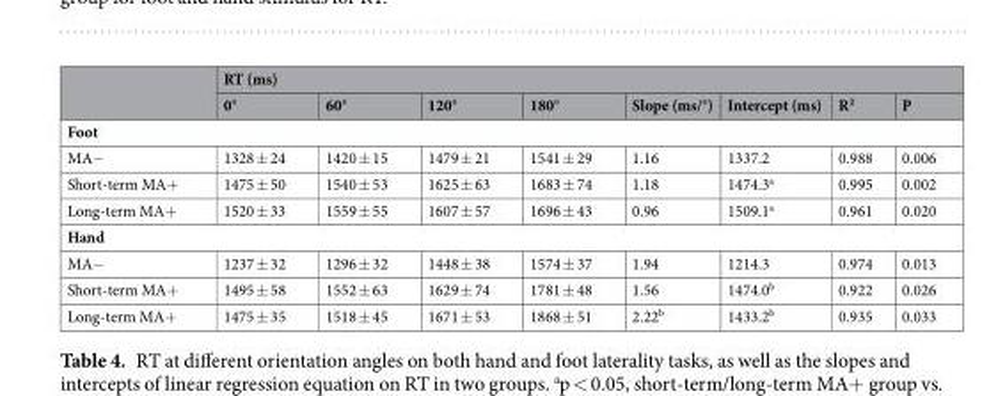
<table><thead><tr><td rowspan="2"></td><td colspan="8">RT (ms)</td></tr><tr><td>0°</td><td>60°</td><td>120°</td><td>180°</td><td>Slope (ms/°)</td><td>Intercept (ms)</td><td>R<sup>2</sup></td><td>P</td></tr></thead><tbody><tr><td colspan="9">Foot</td></tr><tr><td>MA−</td><td>1328 ± 24</td><td>1420 ± 15</td><td>1479 ± 21</td><td>1541 ± 29</td><td>1.16</td><td>1337.2</td><td>0.988</td><td>0.006</td></tr><tr><td>Short-term MA+</td><td>1475 ± 50</td><td>1540 ± 53</td><td>1625 ± 63</td><td>1683 ± 74</td><td>1.18</td><td>1474.3<sup>a</sup></td><td>0.995</td><td>0.002</td></tr><tr><td>Long-term MA+</td><td>1520 ± 33</td><td>1559 ± 55</td><td>1607 ± 57</td><td>1696 ± 43</td><td>0.96</td><td>1509.1<sup>a</sup></td><td>0.961</td><td>0.020</td></tr><tr><td colspan="9">Hand</td></tr><tr><td>MA−</td><td>1237 ± 32</td><td>1296 ± 32</td><td>1448 ± 38</td><td>1574 ± 37</td><td>1.94</td><td>1214.3</td><td>0.974</td><td>0.013</td></tr><tr><td>Short-term MA+</td><td>1495 ± 58</td><td>1552 ± 63</td><td>1629 ± 74</td><td>1781 ± 48</td><td>1.56</td><td>1474.0<sup>b</sup></td><td>0.922</td><td>0.026</td></tr><tr><td>Long-term MA+</td><td>1475 ± 35</td><td>1518 ± 45</td><td>1671 ± 53</td><td>1868 ± 51</td><td>2.22<sup>b</sup></td><td>1433.2<sup>b</sup></td><td>0.935</td><td>0.033</td></tr></tbody></table>